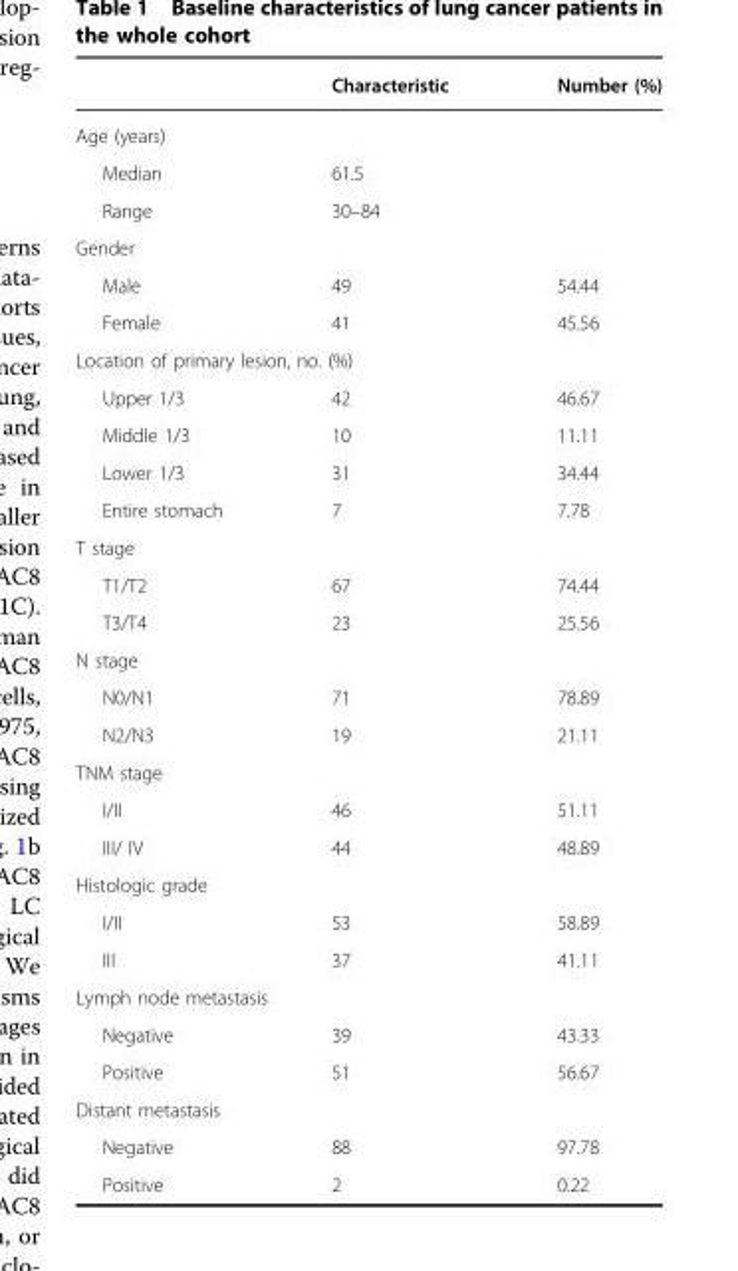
<table><thead><tr><td></td><td>Characteristic</td><td>Number (%)</td></tr></thead><tbody><tr><td colspan="3">Age (years)</td></tr><tr><td>Median</td><td>61.5</td><td></td></tr><tr><td>Range</td><td>30–84</td><td></td></tr><tr><td colspan="3">Gender</td></tr><tr><td>Male</td><td>49</td><td>54.44</td></tr><tr><td>Female</td><td>41</td><td>45.56</td></tr><tr><td colspan="3">Location of primary lesion, no. (%)</td></tr><tr><td>Upper 1/3</td><td>42</td><td>46.67</td></tr><tr><td>Middle 1/3</td><td>10</td><td>11.11</td></tr><tr><td>Lower 1/3</td><td>31</td><td>34.44</td></tr><tr><td>Entire stomach</td><td>7</td><td>7.78</td></tr><tr><td colspan="3">T stage</td></tr><tr><td>T1/T2</td><td>67</td><td>74.44</td></tr><tr><td>T3/T4</td><td>23</td><td>25.56</td></tr><tr><td colspan="3">N stage</td></tr><tr><td>N0/N1</td><td>71</td><td>78.89</td></tr><tr><td>N2/N3</td><td>19</td><td>21.11</td></tr><tr><td colspan="3">TNM stage</td></tr><tr><td>I/II</td><td>46</td><td>51.11</td></tr><tr><td>III/ IV</td><td>44</td><td>48.89</td></tr><tr><td colspan="3">Histologic grade</td></tr><tr><td>I/II</td><td>53</td><td>58.89</td></tr><tr><td>III</td><td>37</td><td>41.11</td></tr><tr><td colspan="3">Lymph node metastasis</td></tr><tr><td>Negative</td><td>39</td><td>43.33</td></tr><tr><td>Positive</td><td>51</td><td>56.67</td></tr><tr><td colspan="3">Distant metastasis</td></tr><tr><td>Negative</td><td>88</td><td>97.78</td></tr><tr><td>Positive</td><td>2</td><td>0.22</td></tr></tbody></table>